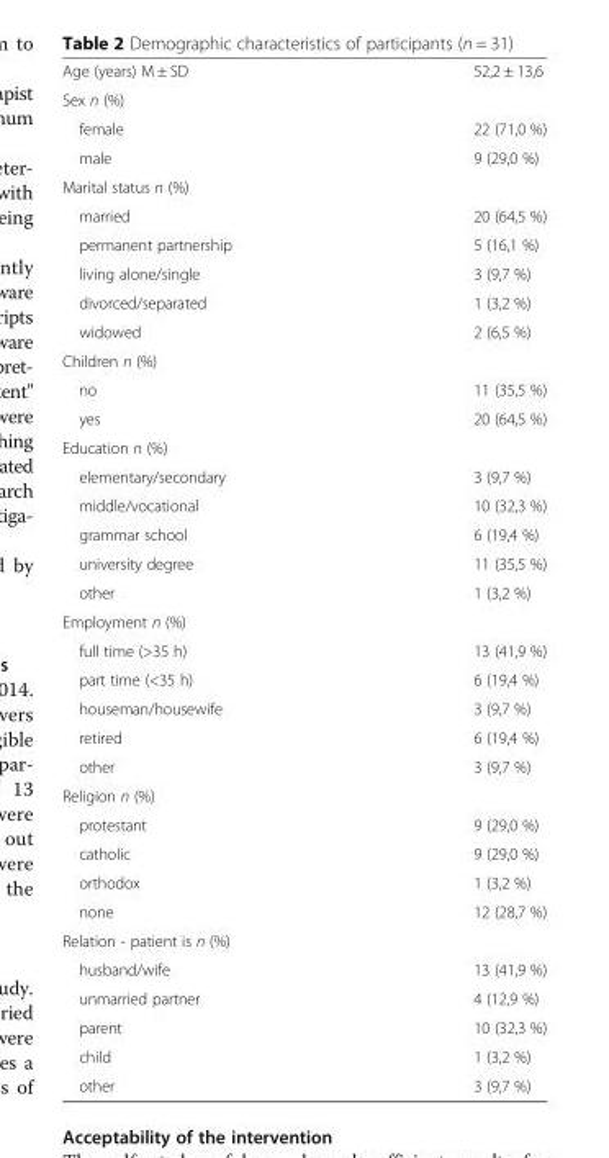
<table><tbody><tr><td>Age (years) M ± SD</td><td>52,2 ± 13,6</td></tr><tr><td colspan="2">Sex n (%)</td></tr><tr><td>female</td><td>22 (71,0 %)</td></tr><tr><td>male</td><td>9 (29,0 %)</td></tr><tr><td colspan="2">Marital status n (%)</td></tr><tr><td>married</td><td>20 (64,5 %)</td></tr><tr><td>permanent partnership</td><td>5 (16,1 %)</td></tr><tr><td>living alone/single</td><td>3 (9,7 %)</td></tr><tr><td>divorced/separated</td><td>1 (3,2 %)</td></tr><tr><td>widowed</td><td>2 (6,5 %)</td></tr><tr><td colspan="2">Children n (%)</td></tr><tr><td>no</td><td>11 (35,5 %)</td></tr><tr><td>yes</td><td>20 (64,5 %)</td></tr><tr><td colspan="2">Education n (%)</td></tr><tr><td>elementary/secondary</td><td>3 (9,7 %)</td></tr><tr><td>middle/vocational</td><td>10 (32,3 %)</td></tr><tr><td>grammar school</td><td>6 (19,4 %)</td></tr><tr><td>university degree</td><td>11 (35,5 %)</td></tr><tr><td>other</td><td>1 (3,2 %)</td></tr><tr><td colspan="2">Employment n (%)</td></tr><tr><td>full time (&gt;35 h)</td><td>13 (41,9 %)</td></tr><tr><td>part time (&lt;35 h)</td><td>6 (19,4 %)</td></tr><tr><td>houseman/housewife</td><td>3 (9,7 %)</td></tr><tr><td>retired</td><td>6 (19,4 %)</td></tr><tr><td>other</td><td>3 (9,7 %)</td></tr><tr><td colspan="2">Religion n (%)</td></tr><tr><td>protestant</td><td>9 (29,0 %)</td></tr><tr><td>catholic</td><td>9 (29,0 %)</td></tr><tr><td>orthodox</td><td>1 (3,2 %)</td></tr><tr><td>none</td><td>12 (28,7 %)</td></tr><tr><td colspan="2">Relation - patient is n (%)</td></tr><tr><td>husband/wife</td><td>13 (41,9 %)</td></tr><tr><td>unmarried partner</td><td>4 (12,9 %)</td></tr><tr><td>parent</td><td>10 (32,3 %)</td></tr><tr><td>child</td><td>1 (3,2 %)</td></tr><tr><td>other</td><td>3 (9,7 %)</td></tr></tbody></table>